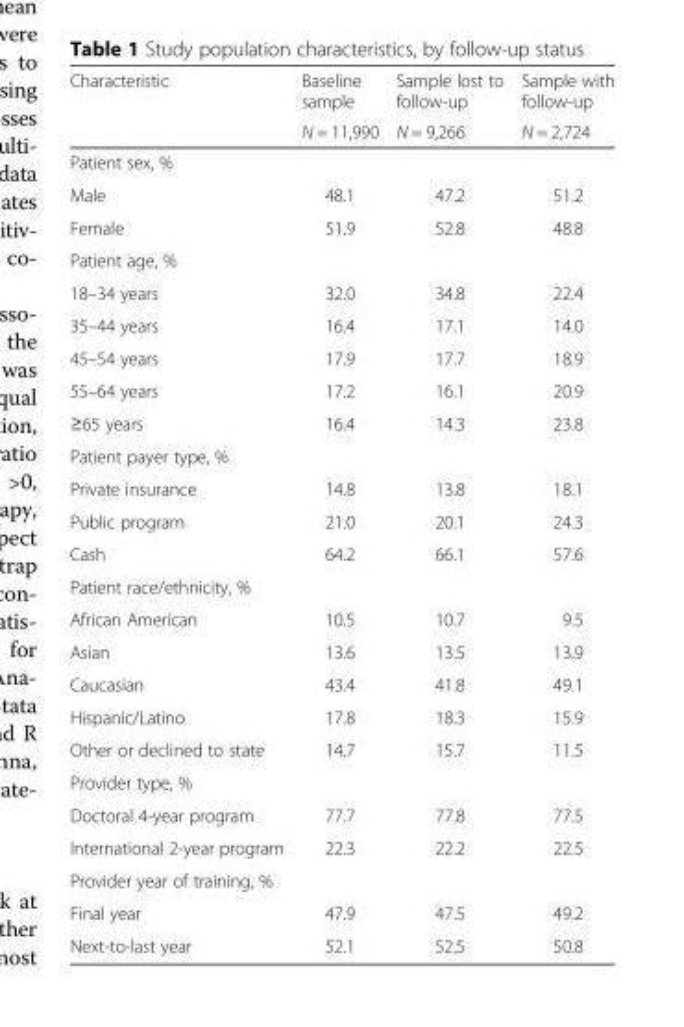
<table><thead><tr><td rowspan="2">Characteristic</td><td rowspan="2">Baseline sample N = 11,990</td><td rowspan="2">Sample lost to follow-up N = 9,266</td><td rowspan="2">Sample with follow-up N = 2,724</td></tr><tr></tr></thead><tbody><tr><td colspan="4">Patient sex, %</td></tr><tr><td>Male</td><td>48.1</td><td>47.2</td><td>51.2</td></tr><tr><td>Female</td><td>51.9</td><td>52.8</td><td>48.8</td></tr><tr><td colspan="4">Patient age, %</td></tr><tr><td>18–34 years</td><td>32.0</td><td>34.8</td><td>22.4</td></tr><tr><td>35–44 years</td><td>16.4</td><td>17.1</td><td>14.0</td></tr><tr><td>45–54 years</td><td>17.9</td><td>17.7</td><td>18.9</td></tr><tr><td>55–64 years</td><td>17.2</td><td>16.1</td><td>20.9</td></tr><tr><td>≥65 years</td><td>16.4</td><td>14.3</td><td>23.8</td></tr><tr><td colspan="4">Patient payer type, %</td></tr><tr><td>Private insurance</td><td>14.8</td><td>13.8</td><td>18.1</td></tr><tr><td>Public program</td><td>21.0</td><td>20.1</td><td>24.3</td></tr><tr><td>Cash</td><td>64.2</td><td>66.1</td><td>57.6</td></tr><tr><td colspan="4">Patient race/ethnicity, %</td></tr><tr><td>African American</td><td>10.5</td><td>10.7</td><td>9.5</td></tr><tr><td>Asian</td><td>13.6</td><td>13.5</td><td>13.9</td></tr><tr><td>Caucasian</td><td>43.4</td><td>41.8</td><td>49.1</td></tr><tr><td>Hispanic/Latino</td><td>17.8</td><td>18.3</td><td>15.9</td></tr><tr><td>Other or declined to state</td><td>14.7</td><td>15.7</td><td>11.5</td></tr><tr><td colspan="4">Provider type, %</td></tr><tr><td>Doctoral 4-year program</td><td>77.7</td><td>77.8</td><td>77.5</td></tr><tr><td>International 2-year program</td><td>22.3</td><td>22.2</td><td>22.5</td></tr><tr><td colspan="4">Provider year of training, %</td></tr><tr><td>Final year</td><td>47.9</td><td>47.5</td><td>49.2</td></tr><tr><td>Next-to-last year</td><td>52.1</td><td>52.5</td><td>50.8</td></tr></tbody></table>